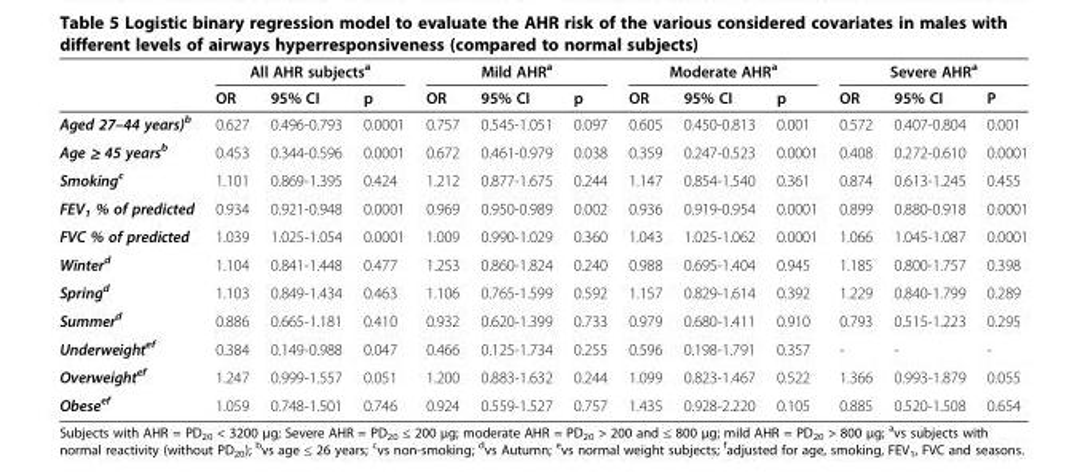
<table><thead><tr><td rowspan="2"></td><td colspan="3">All AHR subjects<sup>a</sup></td><td colspan="3">Mild AHR<sup>a</sup></td><td colspan="3">Moderate AHR<sup>a</sup></td><td colspan="3">Severe AHR<sup>a</sup></td></tr><tr><td>OR</td><td>95% CI</td><td>p</td><td>OR</td><td>95% CI</td><td>p</td><td>OR</td><td>95% CI</td><td>p</td><td>OR</td><td>95% CI</td><td>P</td></tr></thead><tbody><tr><td>Aged 27–44 years)<sup>b</sup></td><td>0.627</td><td>0.496-0.793</td><td>0.0001</td><td>0.757</td><td>0.545-1.051</td><td>0.097</td><td>0.605</td><td>0.450-0.813</td><td>0.001</td><td>0.572</td><td>0.407-0.804</td><td>0.001</td></tr><tr><td>Age ≥ 45 years<sup>b</sup></td><td>0.453</td><td>0.344-0.596</td><td>0.0001</td><td>0.672</td><td>0.461-0.979</td><td>0.038</td><td>0.359</td><td>0.247-0.523</td><td>0.0001</td><td>0.408</td><td>0.272-0.610</td><td>0.0001</td></tr><tr><td>Smoking<sup>c</sup></td><td>1.101</td><td>0.869-1.395</td><td>0.424</td><td>1.212</td><td>0.877-1.675</td><td>0.244</td><td>1.147</td><td>0.854-1.540</td><td>0.361</td><td>0.874</td><td>0.613-1.245</td><td>0.455</td></tr><tr><td>FEV<sub>1</sub> % of predicted</td><td>0.934</td><td>0.921-0.948</td><td>0.0001</td><td>0.969</td><td>0.950-0.989</td><td>0.002</td><td>0.936</td><td>0.919-0.954</td><td>0.0001</td><td>0.899</td><td>0.880-0.918</td><td>0.0001</td></tr><tr><td>FVC % of predicted</td><td>1.039</td><td>1.025-1.054</td><td>0.0001</td><td>1.009</td><td>0.990-1.029</td><td>0.360</td><td>1.043</td><td>1.025-1.062</td><td>0.0001</td><td>1.066</td><td>1.045-1.087</td><td>0.0001</td></tr><tr><td>Winter<sup>d</sup></td><td>1.104</td><td>0.841-1.448</td><td>0.477</td><td>1.253</td><td>0.860-1.824</td><td>0.240</td><td>0.988</td><td>0.695-1.404</td><td>0.945</td><td>1.185</td><td>0.800-1.757</td><td>0.398</td></tr><tr><td>Spring<sup>d</sup></td><td>1.103</td><td>0.849-1.434</td><td>0.463</td><td>1.106</td><td>0.765-1.599</td><td>0.592</td><td>1.157</td><td>0.829-1.614</td><td>0.392</td><td>1.229</td><td>0.840-1.799</td><td>0.289</td></tr><tr><td>Summer<sup>d</sup></td><td>0.886</td><td>0.665-1.181</td><td>0.410</td><td>0.932</td><td>0.620-1.399</td><td>0.733</td><td>0.979</td><td>0.680-1.411</td><td>0.910</td><td>0.793</td><td>0.515-1.223</td><td>0.295</td></tr><tr><td>Underweight<sup>ef</sup></td><td>0.384</td><td>0.149-0.988</td><td>0.047</td><td>0.466</td><td>0.125-1.734</td><td>0.255</td><td>0.596</td><td>0.198-1.791</td><td>0.357</td><td>-</td><td>-</td><td>-</td></tr><tr><td>Overweight<sup>ef</sup></td><td>1.247</td><td>0.999-1.557</td><td>0.051</td><td>1.200</td><td>0.883-1.632</td><td>0.244</td><td>1.099</td><td>0.823-1.467</td><td>0.522</td><td>1.366</td><td>0.993-1.879</td><td>0.055</td></tr><tr><td>Obese<sup>ef</sup></td><td>1.059</td><td>0.748-1.501</td><td>0.746</td><td>0.924</td><td>0.559-1.527</td><td>0.757</td><td>1.435</td><td>0.928-2.220</td><td>0.105</td><td>0.885</td><td>0.520-1.508</td><td>0.654</td></tr></tbody></table>